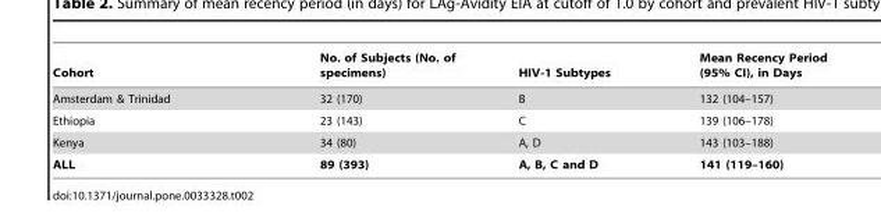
<table><thead><tr><td>Cohort</td><td>No. of Subjects (No. of specimens)</td><td>HIV-1 Subtypes</td><td>Mean Recency Period (95% CI), in Days</td></tr></thead><tbody><tr><td>Amsterdam &amp; Trinidad</td><td>32 (170)</td><td>B</td><td>132 (104–157)</td></tr><tr><td>Ethiopia</td><td>23 (143)</td><td>C</td><td>139 (106–178)</td></tr><tr><td>Kenya</td><td>34 (80)</td><td>A, D</td><td>143 (103–188)</td></tr><tr><td>ALL</td><td>89 (393)</td><td>A, B, C and D</td><td>141 (119–160)</td></tr></tbody></table>